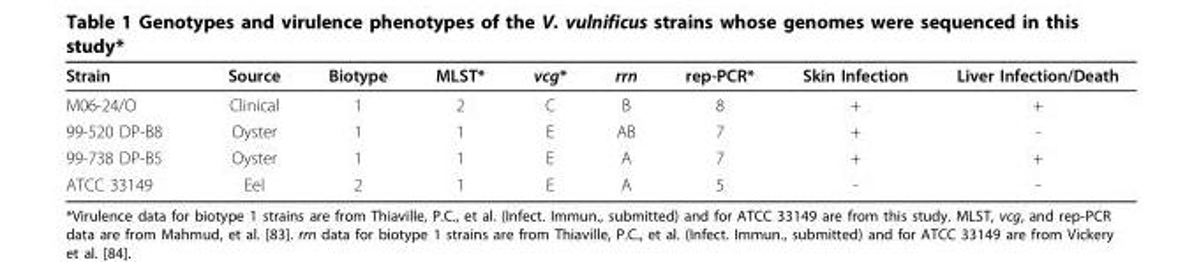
<table><thead><tr><td>Strain</td><td>Source</td><td>Biotype</td><td>MLST*</td><td>vcg*</td><td>rrn</td><td>rep-PCR*</td><td>Skin Infection</td><td>Liver Infection/Death</td></tr></thead><tbody><tr><td>M06-24/O</td><td>Clinical</td><td>1</td><td>2</td><td>C</td><td>B</td><td>8</td><td>+</td><td>+</td></tr><tr><td>99-520 DP-B8</td><td>Oyster</td><td>1</td><td>1</td><td>E</td><td>AB</td><td>7</td><td>+</td><td>-</td></tr><tr><td>99-738 DP-B5</td><td>Oyster</td><td>1</td><td>1</td><td>E</td><td>A</td><td>7</td><td>+</td><td>+</td></tr><tr><td>ATCC 33149</td><td>Eel</td><td>2</td><td>1</td><td>E</td><td>A</td><td>5</td><td>-</td><td>-</td></tr></tbody></table>